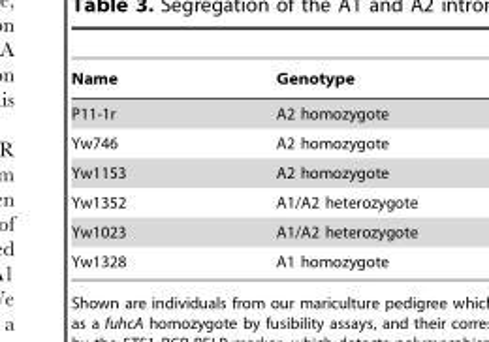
<table><thead><tr><td>Name</td><td>Genotype</td></tr></thead><tbody><tr><td>P11-1r</td><td>A2 homozygote</td></tr><tr><td>Yw746</td><td>A2 homozygote</td></tr><tr><td>Yw1153</td><td>A2 homozygote</td></tr><tr><td>Yw1352</td><td>A1/A2 heterozygote</td></tr><tr><td>Yw1023</td><td>A1/A2 heterozygote</td></tr><tr><td>Yw1328</td><td>A1 homozygote</td></tr></tbody></table>